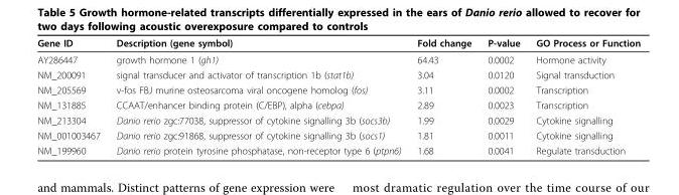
<table><thead><tr><td>Gene ID</td><td>Description (gene symbol)</td><td>Fold change</td><td>P-value</td><td>GO Process or Function</td></tr></thead><tbody><tr><td>AY286447</td><td>growth hormone 1 (gh1)</td><td>64.43</td><td>0.0002</td><td>Hormone activity</td></tr><tr><td>NM_200091</td><td>signal transducer and activator of transcription 1b (stat1b)</td><td>3.04</td><td>0.0120</td><td>Signal transduction</td></tr><tr><td>NM_205569</td><td>v-fos FBJ murine osteosarcoma viral oncogene homolog (fos)</td><td>3.11</td><td>0.0002</td><td>Transcription</td></tr><tr><td>NM_131885</td><td>CCAAT/enhancer binding protein (C/EBP), alpha (cebpa)</td><td>2.89</td><td>0.0023</td><td>Transcription</td></tr><tr><td>NM_213304</td><td>Danio rerio zgc:77038, suppressor of cytokine signalling 3b (socs3b)</td><td>1.99</td><td>0.0029</td><td>Cytokine signalling</td></tr><tr><td>NM_001003467</td><td>Danio rerio zgc:91868, suppressor of cytokine signalling 3b (socs1)</td><td>1.81</td><td>0.0011</td><td>Cytokine signalling</td></tr><tr><td>NM_199960</td><td>Danio rerio protein tyrosine phosphatase, non-receptor type 6 (ptpn6)</td><td>1.68</td><td>0.0041</td><td>Regulate transduction</td></tr></tbody></table>